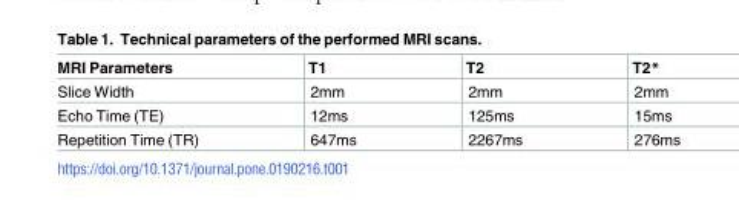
<table><thead><tr><td>MRI Parameters</td><td>T1</td><td>T2</td><td>T2*</td></tr></thead><tbody><tr><td>Slice Width</td><td>2mm</td><td>2mm</td><td>2mm</td></tr><tr><td>Echo Time (TE)</td><td>12ms</td><td>125ms</td><td>15ms</td></tr><tr><td>Repetition Time (TR)</td><td>647ms</td><td>2267ms</td><td>276ms</td></tr></tbody></table>